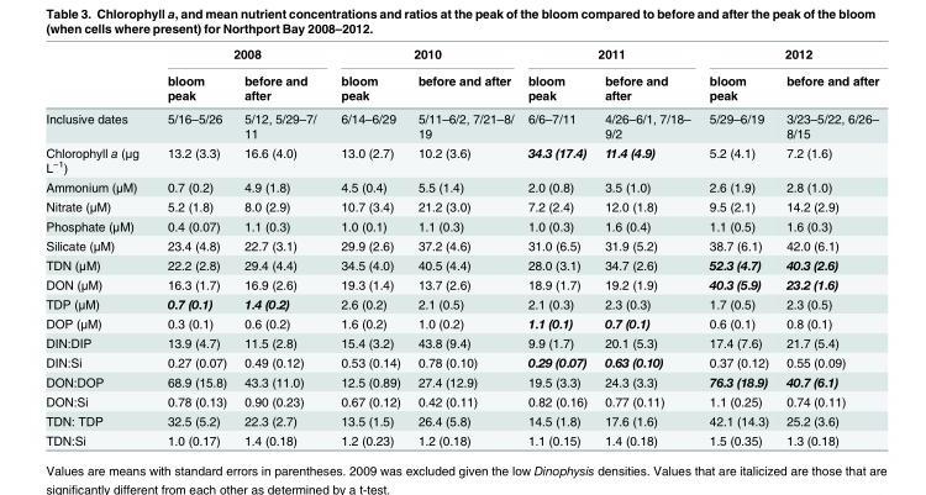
<table><thead><tr><td rowspan="2"></td><td colspan="2">2008</td><td colspan="2">2010</td><td colspan="2">2011</td><td colspan="2">2012</td></tr><tr><td>bloom peak</td><td>before and after</td><td>bloom peak</td><td>before and after</td><td>bloom peak</td><td>before and after</td><td>bloom peak</td><td>before and after</td></tr></thead><tbody><tr><td>Inclusive dates</td><td>5/16–5/26</td><td>5/12, 5/29–7/ 11</td><td>6/14–6/29</td><td>5/11–6/2, 7/21–8/ 19</td><td>6/6–7/11</td><td>4/26–6/1, 7/18– 9/2</td><td>5/29–6/19</td><td>3/23–5/22, 6/26– 8/15</td></tr><tr><td>Chlorophyll a (μg L<sup>−1</sup>)</td><td>13.2 (3.3)</td><td>16.6 (4.0)</td><td>13.0 (2.7)</td><td>10.2 (3.6)</td><td>34.3 (17.4)</td><td>11.4 (4.9)</td><td>5.2 (4.1)</td><td>7.2 (1.6)</td></tr><tr><td>Ammonium (μM)</td><td>0.7 (0.2)</td><td>4.9 (1.8)</td><td>4.5 (0.4)</td><td>5.5 (1.4)</td><td>2.0 (0.8)</td><td>3.5 (1.0)</td><td>2.6 (1.9)</td><td>2.8 (1.0)</td></tr><tr><td>Nitrate (μM)</td><td>5.2 (1.8)</td><td>8.0 (2.9)</td><td>10.7 (3.4)</td><td>21.2 (3.0)</td><td>7.2 (2.4)</td><td>12.0 (1.8)</td><td>9.5 (2.1)</td><td>14.2 (2.9)</td></tr><tr><td>Phosphate (μM)</td><td>0.4 (0.07)</td><td>1.1 (0.3)</td><td>1.0 (0.1)</td><td>1.1 (0.3)</td><td>1.0 (0.3)</td><td>1.6 (0.4)</td><td>1.1 (0.5)</td><td>1.6 (0.3)</td></tr><tr><td>Silicate (μM)</td><td>23.4 (4.8)</td><td>22.7 (3.1)</td><td>29.9 (2.6)</td><td>37.2 (4.6)</td><td>31.0 (6.5)</td><td>31.9 (5.2)</td><td>38.7 (6.1)</td><td>42.0 (6.1)</td></tr><tr><td>TDN (μM)</td><td>22.2 (2.8)</td><td>29.4 (4.4)</td><td>34.5 (4.0)</td><td>40.5 (4.4)</td><td>28.0 (3.1)</td><td>34.7 (2.6)</td><td>52.3 (4.7)</td><td>40.3 (2.6)</td></tr><tr><td>DON (μM)</td><td>16.3 (1.7)</td><td>16.9 (2.6)</td><td>19.3 (1.4)</td><td>13.7 (2.6)</td><td>18.9 (1.7)</td><td>19.2 (1.9)</td><td>40.3 (5.9)</td><td>23.2 (1.6)</td></tr><tr><td>TDP (μM)</td><td>0.7 (0.1)</td><td>1.4 (0.2)</td><td>2.6 (0.2)</td><td>2.1 (0.5)</td><td>2.1 (0.3)</td><td>2.3 (0.3)</td><td>1.7 (0.5)</td><td>2.3 (0.5)</td></tr><tr><td>DOP (μM)</td><td>0.3 (0.1)</td><td>0.6 (0.2)</td><td>1.6 (0.2)</td><td>1.0 (0.2)</td><td>1.1 (0.1)</td><td>0.7 (0.1)</td><td>0.6 (0.1)</td><td>0.8 (0.1)</td></tr><tr><td>DIN:DIP</td><td>13.9 (4.7)</td><td>11.5 (2.8)</td><td>15.4 (3.2)</td><td>43.8 (9.4)</td><td>9.9 (1.7)</td><td>20.1 (5.3)</td><td>17.4 (7.6)</td><td>21.7 (5.4)</td></tr><tr><td>DIN:Si</td><td>0.27 (0.07)</td><td>0.49 (0.12)</td><td>0.53 (0.14)</td><td>0.78 (0.10)</td><td>0.29 (0.07)</td><td>0.63 (0.10)</td><td>0.37 (0.12)</td><td>0.55 (0.09)</td></tr><tr><td>DON:DOP</td><td>68.9 (15.8)</td><td>43.3 (11.0)</td><td>12.5 (0.89)</td><td>27.4 (12.9)</td><td>19.5 (3.3)</td><td>24.3 (3.3)</td><td>76.3 (18.9)</td><td>40.7 (6.1)</td></tr><tr><td>DON:Si</td><td>0.78 (0.13)</td><td>0.90 (0.23)</td><td>0.67 (0.12)</td><td>0.42 (0.11)</td><td>0.82 (0.16)</td><td>0.77 (0.11)</td><td>1.1 (0.25)</td><td>0.74 (0.11)</td></tr><tr><td>TDN: TDP</td><td>32.5 (5.2)</td><td>22.3 (2.7)</td><td>13.5 (1.5)</td><td>26.4 (5.8)</td><td>14.5 (1.8)</td><td>17.6 (1.6)</td><td>42.1 (14.3)</td><td>25.2 (3.6)</td></tr><tr><td>TDN:Si</td><td>1.0 (0.17)</td><td>1.4 (0.18)</td><td>1.2 (0.23)</td><td>1.2 (0.18)</td><td>1.1 (0.15)</td><td>1.4 (0.18)</td><td>1.5 (0.35)</td><td>1.3 (0.18)</td></tr></tbody></table>